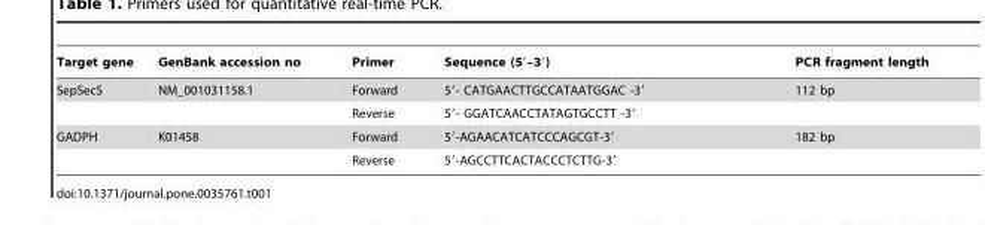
<table><thead><tr><td>Target gene</td><td>GenBank accession no</td><td>Primer</td><td>Sequence (5′–3′)</td><td>PCR fragment length</td></tr></thead><tbody><tr><td rowspan="2">SepSecS</td><td>NM_001031158.1</td><td>Forward</td><td>5′- CATGAACTTGCCATAATGGAC -3′</td><td>112 bp</td></tr><tr><td></td><td>Reverse</td><td>5′- GGATCAACCTATAGTGCCTT -3′</td><td></td></tr><tr><td rowspan="2">GADPH</td><td>K01458</td><td>Forward</td><td>5′-AGAACATCATCCCAGCGT-3′</td><td>182 bp</td></tr><tr><td></td><td>Reverse</td><td>5′-AGCCTTCACTACCCTCTTG-3′</td><td></td></tr></tbody></table>